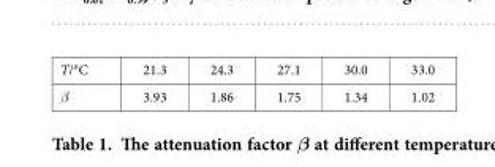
<table><tbody><tr><td><sub>T/°C</sub></td><td><sub>21.3</sub></td><td><sub>24.3</sub></td><td><sub>27.1</sub></td><td><sub>30.0</sub></td><td><sub>33.0</sub></td></tr><tr><td>β</td><td><sub>3.93</sub></td><td><sub>1.86</sub></td><td><sub>1.75</sub></td><td><sub>1.34</sub></td><td><sub>1.02</sub></td></tr></tbody></table>